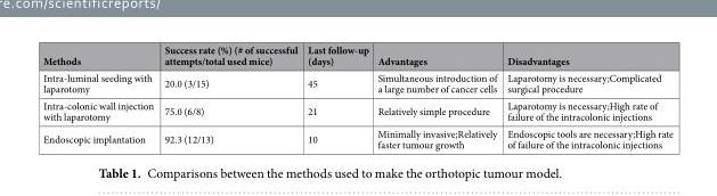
<table><thead><tr><td>Methods</td><td>Success rate (%) (# of successful attempts/total used mice)</td><td>Last follow-up (days)</td><td>Advantages</td><td>Disadvantages</td></tr></thead><tbody><tr><td>Intra-luminal seeding with laparotomy</td><td>20.0 (3/15)</td><td>45</td><td>Simultaneous introduction of a large number of cancer cells</td><td>Laparotomy is necessary;Complicated surgical procedure</td></tr><tr><td>Intra-colonic wall injection with laparotomy</td><td>75.0 (6/8)</td><td>21</td><td>Relatively simple procedure</td><td>Laparotomy is necessary;High rate of failure of the intracolonic injections</td></tr><tr><td>Endoscopic implantation</td><td>92.3 (12/13)</td><td>10</td><td>Minimally invasive;Relatively faster tumour growth</td><td>Endoscopic tools are necessary;High rate of failure of the intracolonic injections</td></tr></tbody></table>